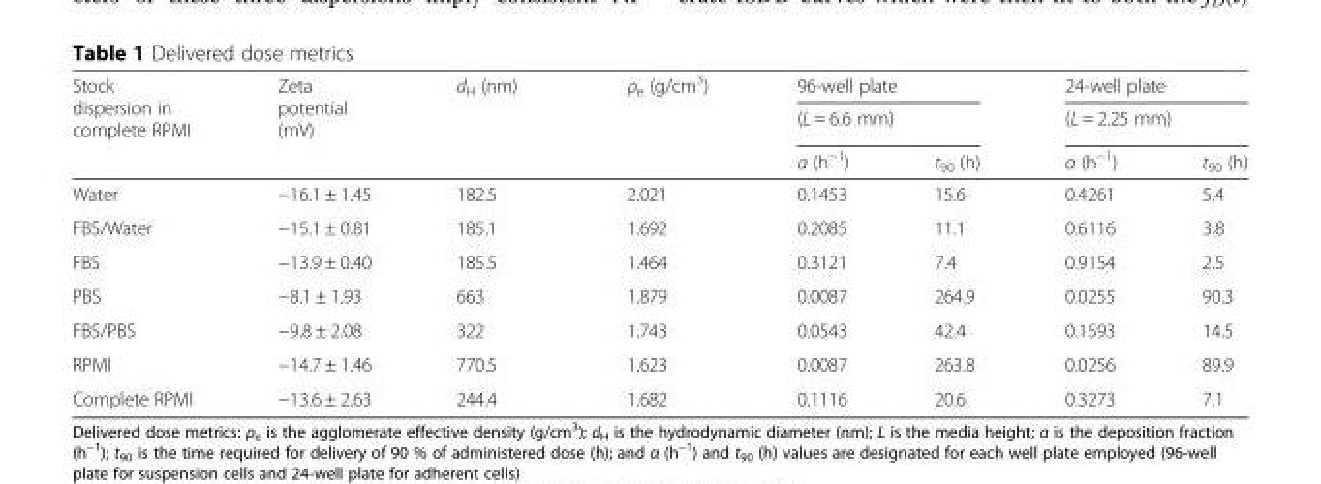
<table><thead><tr><td rowspan="3">Stock dispersion in complete RPMI</td><td rowspan="3">Zeta potential (mV)</td><td rowspan="3">d<sub>H</sub> (nm)</td><td rowspan="3">ρ<sub>e</sub> (g/cm<sup>3</sup>)</td><td rowspan="2" colspan="2">96-well plate (L = 6.6 mm)</td><td rowspan="2" colspan="2">24-well plate (L = 2.25 mm)</td></tr><tr></tr><tr><td>α (h<sup>−1</sup>)</td><td>t<sub>90</sub> (h)</td><td>α (h<sup>−1</sup>)</td><td>t<sub>90</sub> (h)</td></tr></thead><tbody><tr><td>Water</td><td>−16.1 ± 1.45</td><td>182.5</td><td>2.021</td><td>0.1453</td><td>15.6</td><td>0.4261</td><td>5.4</td></tr><tr><td>FBS/Water</td><td>−15.1 ± 0.81</td><td>185.1</td><td>1.692</td><td>0.2085</td><td>11.1</td><td>0.6116</td><td>3.8</td></tr><tr><td>FBS</td><td>−13.9 ± 0.40</td><td>185.5</td><td>1.464</td><td>0.3121</td><td>7.4</td><td>0.9154</td><td>2.5</td></tr><tr><td>PBS</td><td>−8.1 ± 1.93</td><td>663</td><td>1.879</td><td>0.0087</td><td>264.9</td><td>0.0255</td><td>90.3</td></tr><tr><td>FBS/PBS</td><td>−9.8 ± 2.08</td><td>322</td><td>1.743</td><td>0.0543</td><td>42.4</td><td>0.1593</td><td>14.5</td></tr><tr><td>RPMI</td><td>−14.7 ± 1.46</td><td>770.5</td><td>1.623</td><td>0.0087</td><td>263.8</td><td>0.0256</td><td>89.9</td></tr><tr><td>Complete RPMI</td><td>−13.6 ± 2.63</td><td>244.4</td><td>1.682</td><td>0.1116</td><td>20.6</td><td>0.3273</td><td>7.1</td></tr></tbody></table>